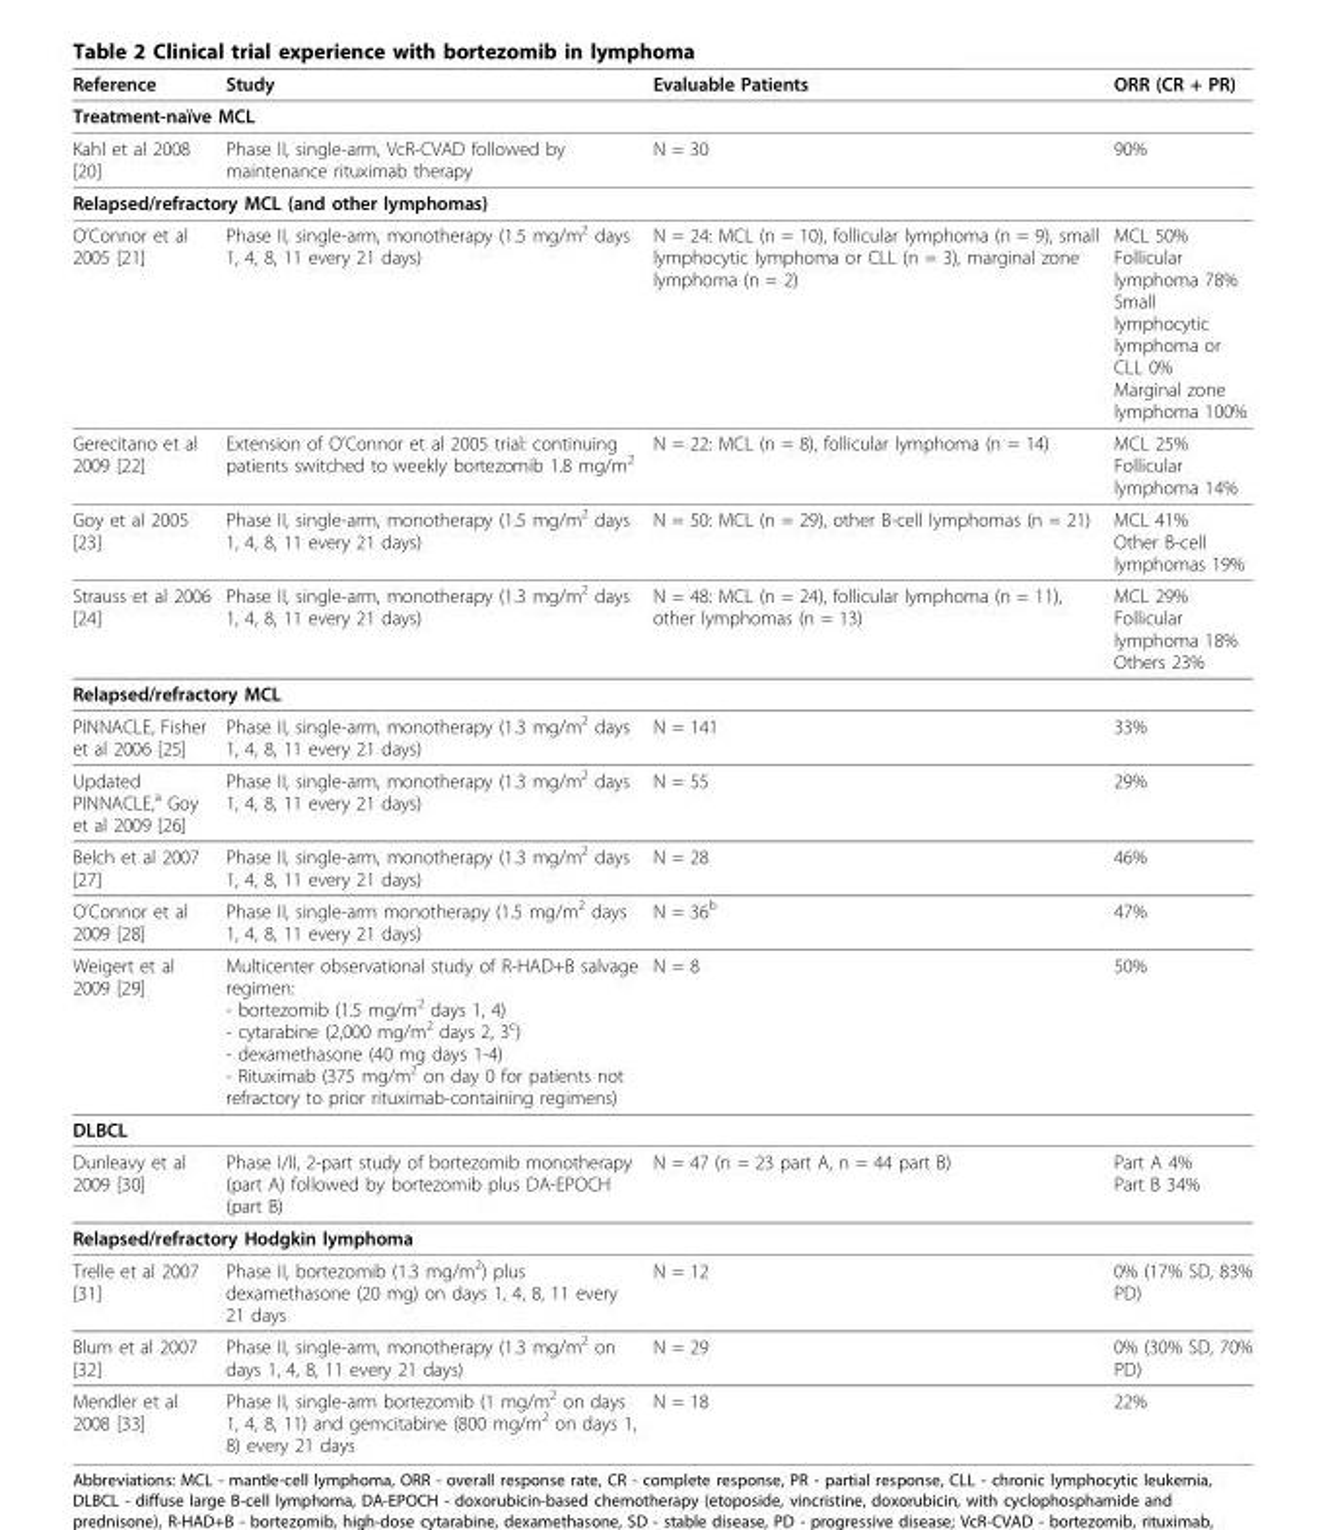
<table><thead><tr><td>Reference</td><td>Study</td><td>Evaluable Patients</td><td>ORR (CR + PR)</td></tr></thead><tbody><tr><td colspan="4">Treatment-naïve MCL</td></tr><tr><td>Kahl et al 2008 [20]</td><td>Phase II, single-arm, VcR-CVAD followed by maintenance rituximab therapy</td><td>N = 30</td><td>90%</td></tr><tr><td colspan="4">Relapsed/refractory MCL (and other lymphomas)</td></tr><tr><td>O’Connor et al 2005 [21]</td><td>Phase II, single-arm, monotherapy (1.5 mg/m<sup>2</sup> days 1, 4, 8, 11 every 21 days)</td><td>N = 24: MCL (n = 10), follicular lymphoma (n = 9), small lymphocytic lymphoma or CLL (n = 3), marginal zone lymphoma (n = 2)</td><td>MCL 50% Follicular lymphoma 78% Small lymphocytic lymphoma or CLL 0% Marginal zone lymphoma 100%</td></tr><tr><td>Gerecitano et al 2009 [22]</td><td>Extension of O’Connor et al 2005 trial: continuing patients switched to weekly bortezomib 1.8 mg/m<sup>2</sup></td><td>N = 22: MCL (n = 8), follicular lymphoma (n = 14)</td><td>MCL 25% Follicular lymphoma 14%</td></tr><tr><td>Goy et al 2005 [23]</td><td>Phase II, single-arm, monotherapy (1.5 mg/m<sup>2</sup> days 1, 4, 8, 11 every 21 days)</td><td>N = 50: MCL (n = 29), other B-cell lymphomas (n = 21)</td><td>MCL 41% Other B-cell lymphomas 19%</td></tr><tr><td>Strauss et al 2006 [24]</td><td>Phase II, single-arm, monotherapy (1.3 mg/m<sup>2</sup> days 1, 4, 8, 11 every 21 days)</td><td>N = 48: MCL (n = 24), follicular lymphoma (n = 11), other lymphomas (n = 13)</td><td>MCL 29% Follicular lymphoma 18% Others 23%</td></tr><tr><td colspan="4">Relapsed/refractory MCL</td></tr><tr><td>PINNACLE, Fisher et al 2006 [25]</td><td>Phase II, single-arm, monotherapy (1.3 mg/m<sup>2</sup> days 1, 4, 8, 11 every 21 days)</td><td>N = 141</td><td>33%</td></tr><tr><td>Updated PINNACLE,<sup>a</sup> Goy et al 2009 [26]</td><td>Phase II, single-arm, monotherapy (1.3 mg/m<sup>2</sup> days 1, 4, 8, 11 every 21 days)</td><td>N = 55</td><td>29%</td></tr><tr><td>Belch et al 2007 [27]</td><td>Phase II, single-arm, monotherapy (1.3 mg/m<sup>2</sup> days 1, 4, 8, 11 every 21 days)</td><td>N = 28</td><td>46%</td></tr><tr><td>O’Connor et al 2009 [28]</td><td>Phase II, single-arm monotherapy (1.5 mg/m<sup>2</sup> days 1, 4, 8, 11 every 21 days)</td><td>N = 36<sup>b</sup></td><td>47%</td></tr><tr><td>Weigert et al 2009 [29]</td><td>Multicenter observational study of R-HAD+B salvage regimen: - bortezomib (1.5 mg/m<sup>2</sup> days 1, 4) - cytarabine (2,000 mg/m<sup>2</sup> days 2, 3<sup>c</sup>) - dexamethasone (40 mg days 1-4) - Rituximab (375 mg/m<sup>2</sup> on day 0 for patients not refractory to prior rituximab-containing regimens)</td><td>N = 8</td><td>50%</td></tr><tr><td colspan="4">DLBCL</td></tr><tr><td>Dunleavy et al 2009 [30]</td><td>Phase I/II, 2-part study of bortezomib monotherapy (part A) followed by bortezomib plus DA-EPOCH (part B)</td><td>N = 47 (n = 23 part A, n = 44 part B)</td><td>Part A 4% Part B 34%</td></tr><tr><td colspan="4">Relapsed/refractory Hodgkin lymphoma</td></tr><tr><td>Trelle et al 2007 [31]</td><td>Phase II, bortezomib (1.3 mg/m<sup>2</sup>) plus dexamethasone (20 mg) on days 1, 4, 8, 11 every 21 days</td><td>N = 12</td><td>0% (17% SD, 83% PD)</td></tr><tr><td>Blum et al 2007 [32]</td><td>Phase II, single-arm, monotherapy (1.3 mg/m<sup>2</sup> on days 1, 4, 8, 11 every 21 days)</td><td>N = 29</td><td>0% (30% SD, 70% PD)</td></tr><tr><td>Mendler et al 2008 [33]</td><td>Phase II, single-arm bortezomib (1 mg/m<sup>2</sup> on days 1, 4, 8, 11) and gemcitabine (800 mg/m<sup>2</sup> on days 1, 8) every 21 days</td><td>N = 18</td><td>22%</td></tr></tbody></table>